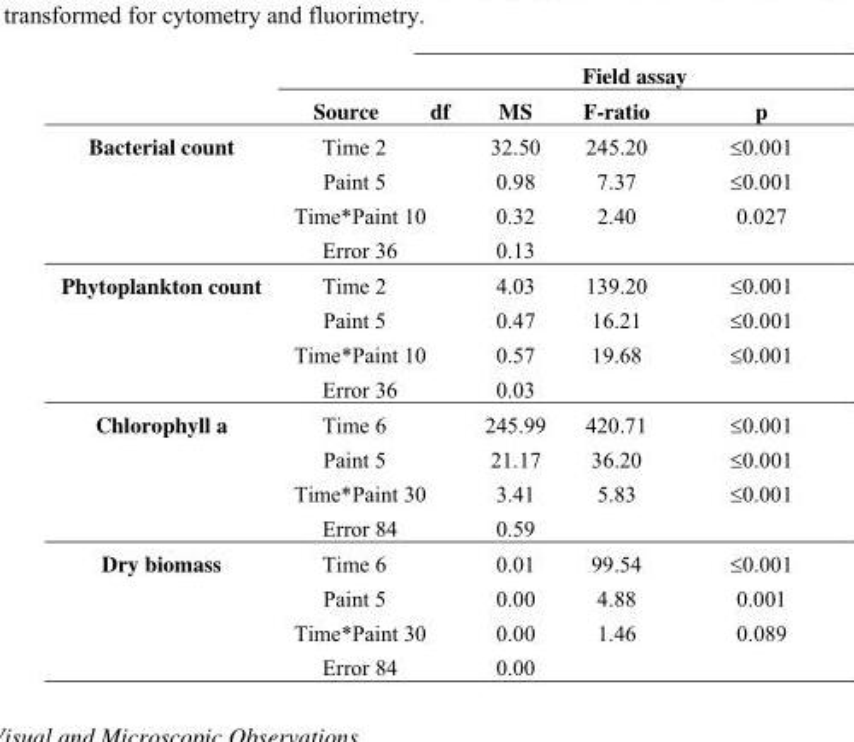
<table><thead><tr><td rowspan="2"></td><td rowspan="2">Source</td><td colspan="4">Field assay</td></tr><tr><td>df</td><td>MS</td><td>F-ratio</td><td>p</td></tr></thead><tbody><tr><td rowspan="4">Bacterial count</td><td>Time 2</td><td></td><td>32.50</td><td>245.20</td><td>≤0.001</td></tr><tr><td>Paint 5</td><td></td><td>0.98</td><td>7.37</td><td>≤0.001</td></tr><tr><td>Time*Paint 10</td><td></td><td>0.32</td><td>2.40</td><td>0.027</td></tr><tr><td>Error 36</td><td></td><td>0.13</td><td></td><td></td></tr><tr><td rowspan="4">Phytoplankton count</td><td>Time 2</td><td></td><td>4.03</td><td>139.20</td><td>≤0.001</td></tr><tr><td>Paint 5</td><td></td><td>0.47</td><td>16.21</td><td>≤0.001</td></tr><tr><td>Time*Paint 10</td><td></td><td>0.57</td><td>19.68</td><td>≤0.001</td></tr><tr><td>Error 36</td><td></td><td>0.03</td><td></td><td></td></tr><tr><td rowspan="4">Chlorophyll a</td><td>Time 6</td><td></td><td>245.99</td><td>420.71</td><td>≤0.001</td></tr><tr><td>Paint 5</td><td></td><td>21.17</td><td>36.20</td><td>≤0.001</td></tr><tr><td>Time*Paint 30</td><td></td><td>3.41</td><td>5.83</td><td>≤0.001</td></tr><tr><td>Error 84</td><td></td><td>0.59</td><td></td><td></td></tr><tr><td rowspan="4">Dry biomass</td><td>Time 6</td><td></td><td>0.01</td><td>99.54</td><td>≤0.001</td></tr><tr><td>Paint 5</td><td></td><td>0.00</td><td>4.88</td><td>0.001</td></tr><tr><td>Time*Paint 30</td><td></td><td>0.00</td><td>1.46</td><td>0.089</td></tr><tr><td>Error 84</td><td></td><td>0.00</td><td></td><td></td></tr></tbody></table>